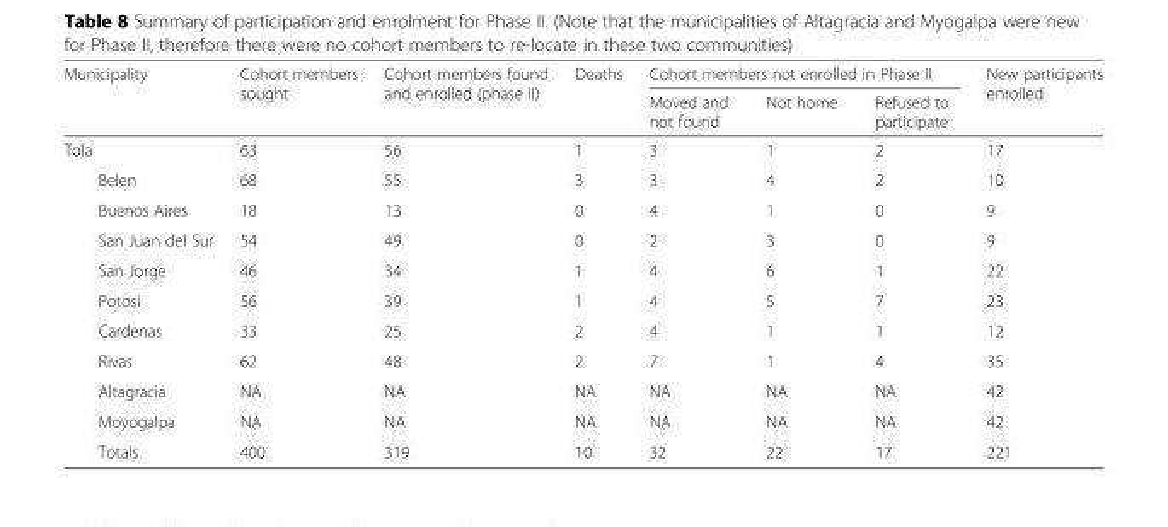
<table><thead><tr><td rowspan="2">Municipality</td><td rowspan="2">Cohort members sought</td><td rowspan="2">Cohort members found and enrolled (phase II)</td><td rowspan="2">Deaths</td><td colspan="3">Cohort members not enrolled in Phase II</td><td rowspan="2">New participants enrolled</td></tr><tr><td>Moved and not found</td><td>Not home</td><td>Refused to participate</td></tr></thead><tbody><tr><td>Tola</td><td>63</td><td>56</td><td>1</td><td>3</td><td>1</td><td>2</td><td>17</td></tr><tr><td>Belen</td><td>68</td><td>55</td><td>3</td><td>3</td><td>4</td><td>2</td><td>10</td></tr><tr><td>Buenos Aires</td><td>18</td><td>13</td><td>0</td><td>4</td><td>1</td><td>0</td><td>9</td></tr><tr><td>San Juan del Sur</td><td>54</td><td>49</td><td>0</td><td>2</td><td>3</td><td>0</td><td>9</td></tr><tr><td>San Jorge</td><td>46</td><td>34</td><td>1</td><td>4</td><td>6</td><td>1</td><td>22</td></tr><tr><td>Potosi</td><td>56</td><td>39</td><td>1</td><td>4</td><td>5</td><td>7</td><td>23</td></tr><tr><td>Cardenas</td><td>33</td><td>25</td><td>2</td><td>4</td><td>1</td><td>1</td><td>12</td></tr><tr><td>Rivas</td><td>62</td><td>48</td><td>2</td><td>7</td><td>1</td><td>4</td><td>35</td></tr><tr><td>Altagracia</td><td>NA</td><td>NA</td><td>NA</td><td>NA</td><td>NA</td><td>NA</td><td>42</td></tr><tr><td>Moyogalpa</td><td>NA</td><td>NA</td><td>NA</td><td>NA</td><td>NA</td><td>NA</td><td>42</td></tr><tr><td>Totals</td><td>400</td><td>319</td><td>10</td><td>32</td><td>22</td><td>17</td><td>221</td></tr></tbody></table>